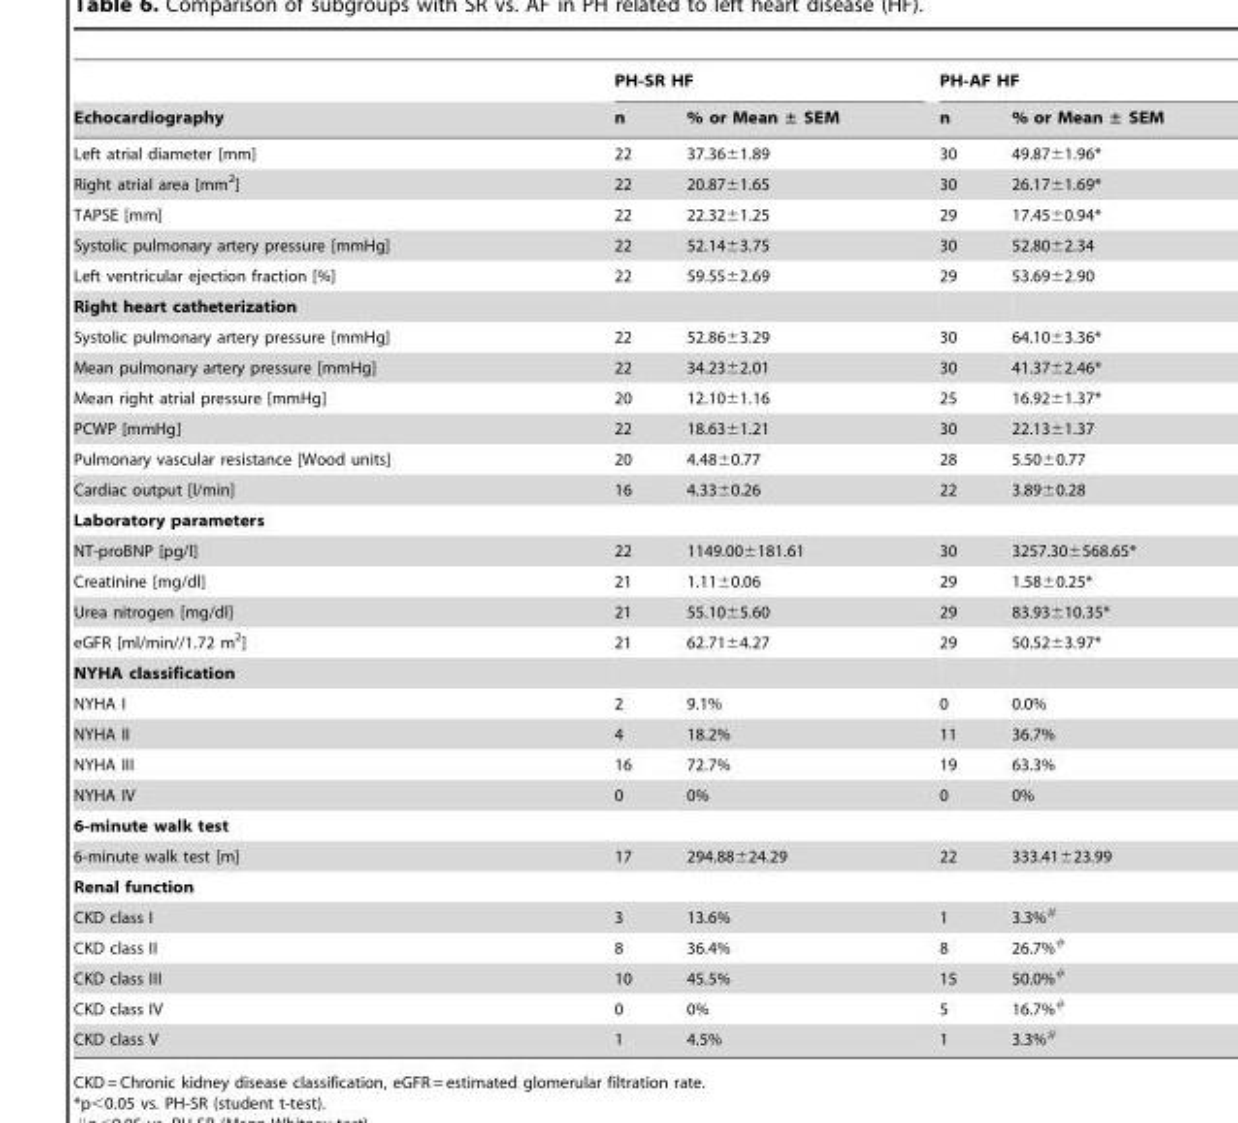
<table><thead><tr><td rowspan="2">Echocardiography</td><td colspan="2">PH-SR HF</td><td colspan="2">PH-AF HF</td></tr><tr><td>n</td><td>% or Mean ± SEM</td><td>n</td><td>% or Mean ± SEM</td></tr></thead><tbody><tr><td>Left atrial diameter [mm]</td><td>22</td><td>37.36±1.89</td><td>30</td><td>49.87±1.96*</td></tr><tr><td>Right atrial area [mm<sup>2</sup>]</td><td>22</td><td>20.87±1.65</td><td>30</td><td>26.17±1.69*</td></tr><tr><td>TAPSE [mm]</td><td>22</td><td>22.32±1.25</td><td>29</td><td>17.45±0.94*</td></tr><tr><td>Systolic pulmonary artery pressure [mmHg]</td><td>22</td><td>52.14±3.75</td><td>30</td><td>52.80±2.34</td></tr><tr><td>Left ventricular ejection fraction [%]</td><td>22</td><td>59.55±2.69</td><td>29</td><td>53.69±2.90</td></tr><tr><td colspan="5">Right heart catheterization</td></tr><tr><td>Systolic pulmonary artery pressure [mmHg]</td><td>22</td><td>52.86±3.29</td><td>30</td><td>64.10±3.36*</td></tr><tr><td>Mean pulmonary artery pressure [mmHg]</td><td>22</td><td>34.23±2.01</td><td>30</td><td>41.37±2.46*</td></tr><tr><td>Mean right atrial pressure [mmHg]</td><td>20</td><td>12.10±1.16</td><td>25</td><td>16.92±1.37*</td></tr><tr><td>PCWP [mmHg]</td><td>22</td><td>18.63±1.21</td><td>30</td><td>22.13±1.37</td></tr><tr><td>Pulmonary vascular resistance [Wood units]</td><td>20</td><td>4.48±0.77</td><td>28</td><td>5.50±0.77</td></tr><tr><td>Cardiac output [l/min]</td><td>16</td><td>4.33±0.26</td><td>22</td><td>3.89±0.28</td></tr><tr><td colspan="5">Laboratory parameters</td></tr><tr><td>NT-proBNP [pg/l]</td><td>22</td><td>1149.00±181.61</td><td>30</td><td>3257.30±568.65*</td></tr><tr><td>Creatinine [mg/dl]</td><td>21</td><td>1.11±0.06</td><td>29</td><td>1.58±0.25*</td></tr><tr><td>Urea nitrogen [mg/dl]</td><td>21</td><td>55.10±5.60</td><td>29</td><td>83.93±10.35*</td></tr><tr><td>eGFR [ml/min//1.72 m<sup>2</sup>]</td><td>21</td><td>62.71±4.27</td><td>29</td><td>50.52±3.97*</td></tr><tr><td colspan="5">NYHA classification</td></tr><tr><td>NYHA I</td><td>2</td><td>9.1%</td><td>0</td><td>0.0%</td></tr><tr><td>NYHA II</td><td>4</td><td>18.2%</td><td>11</td><td>36.7%</td></tr><tr><td>NYHA III</td><td>16</td><td>72.7%</td><td>19</td><td>63.3%</td></tr><tr><td>NYHA IV</td><td>0</td><td>0%</td><td>0</td><td>0%</td></tr><tr><td colspan="5">6-minute walk test</td></tr><tr><td>6-minute walk test [m]</td><td>17</td><td>294.88±24.29</td><td>22</td><td>333.41±23.99</td></tr><tr><td colspan="5">Renal function</td></tr><tr><td>CKD class I</td><td>3</td><td>13.6%</td><td>1</td><td>3.3%#</td></tr><tr><td>CKD class II</td><td>8</td><td>36.4%</td><td>8</td><td>26.7%#</td></tr><tr><td>CKD class III</td><td>10</td><td>45.5%</td><td>15</td><td>50.0%#</td></tr><tr><td>CKD class IV</td><td>0</td><td>0%</td><td>5</td><td>16.7%#</td></tr><tr><td>CKD class V</td><td>1</td><td>4.5%</td><td>1</td><td>3.3%#</td></tr></tbody></table>